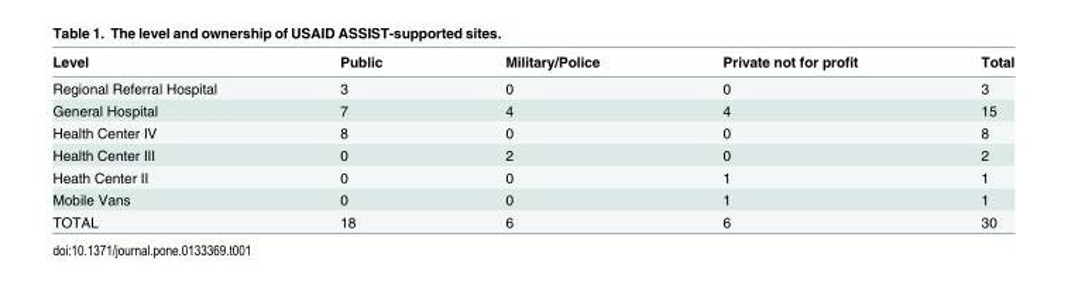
<table><thead><tr><td>Level</td><td>Public</td><td>Military/Police</td><td>Private not for profit</td><td>Total</td></tr></thead><tbody><tr><td>Regional Referral Hospital</td><td>3</td><td>0</td><td>0</td><td>3</td></tr><tr><td>General Hospital</td><td>7</td><td>4</td><td>4</td><td>15</td></tr><tr><td>Health Center IV</td><td>8</td><td>0</td><td>0</td><td>8</td></tr><tr><td>Health Center III</td><td>0</td><td>2</td><td>0</td><td>2</td></tr><tr><td>Heath Center II</td><td>0</td><td>0</td><td>1</td><td>1</td></tr><tr><td>Mobile Vans</td><td>0</td><td>0</td><td>1</td><td>1</td></tr><tr><td>TOTAL</td><td>18</td><td>6</td><td>6</td><td>30</td></tr></tbody></table>